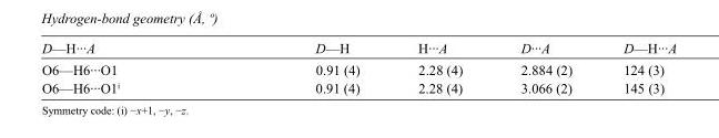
<table><tbody><tr><td>D—H···A</td><td>D—H</td><td>H···A</td><td>D···A</td><td>D—H···A</td></tr><tr><td>O6—H6···O1</td><td>0.91 (4)</td><td>2.28 (4)</td><td>2.884 (2)</td><td>124 (3)</td></tr><tr><td>O6—H6···O1<sup>i</sup></td><td>0.91 (4)</td><td>2.28 (4)</td><td>3.066 (2)</td><td>145 (3)</td></tr></tbody></table>